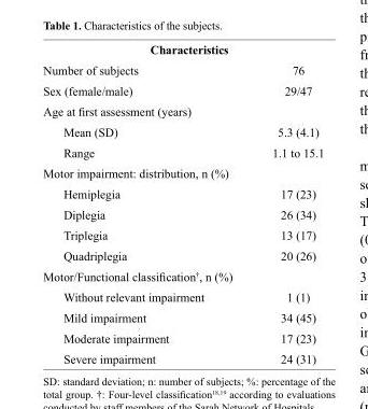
<table><thead><tr><td>Characteristics</td><td></td></tr></thead><tbody><tr><td>Number of subjects</td><td>76</td></tr><tr><td>Sex (female/male)</td><td>29/47</td></tr><tr><td colspan="2">Age at first assessment (years)</td></tr><tr><td>Mean (SD)</td><td>5.3 (4.1)</td></tr><tr><td>Range</td><td>1.1 to 15.1</td></tr><tr><td colspan="2">Motor impairment: distribution, n (%)</td></tr><tr><td>Hemiplegia</td><td>17 (23)</td></tr><tr><td>Diplegia</td><td>26 (34)</td></tr><tr><td>Triplegia</td><td>13 (17)</td></tr><tr><td>Quadriplegia</td><td>20 (26)</td></tr><tr><td colspan="2">Motor/Functional classification†, n (%)</td></tr><tr><td>Without relevant impairment</td><td>1 (1)</td></tr><tr><td>Mild impairment</td><td>34 (45)</td></tr><tr><td>Moderate impairment</td><td>17 (23)</td></tr><tr><td>Severe impairment</td><td>24 (31)</td></tr></tbody></table>